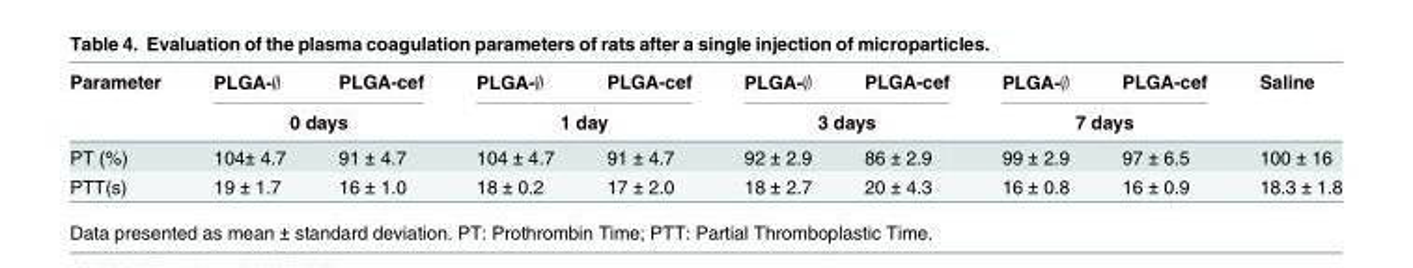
<table><thead><tr><td rowspan="2">Parameter</td><td>PLGA-∅</td><td>PLGA-cef</td><td>PLGA-∅</td><td>PLGA-cef</td><td>PLGA-∅</td><td>PLGA-cef</td><td>PLGA-∅</td><td>PLGA-cef</td><td rowspan="2">Saline</td></tr><tr><td colspan="2">0 days</td><td colspan="2">1 day</td><td colspan="2">3 days</td><td colspan="2">7 days</td></tr></thead><tbody><tr><td>PT (%)</td><td>104± 4.7</td><td>91 ± 4.7</td><td>104 ± 4.7</td><td>91 ± 4.7</td><td>92 ± 2.9</td><td>86 ± 2.9</td><td>99 ± 2.9</td><td>97 ± 6.5</td><td>100 ± 16</td></tr><tr><td>PTT(s)</td><td>19 ± 1.7</td><td>16 ± 1.0</td><td>18 ± 0.2</td><td>17 ± 2.0</td><td>18 ± 2.7</td><td>20 ± 4.3</td><td>16 ± 0.8</td><td>16 ± 0.9</td><td>18.3 ± 1.8</td></tr></tbody></table>